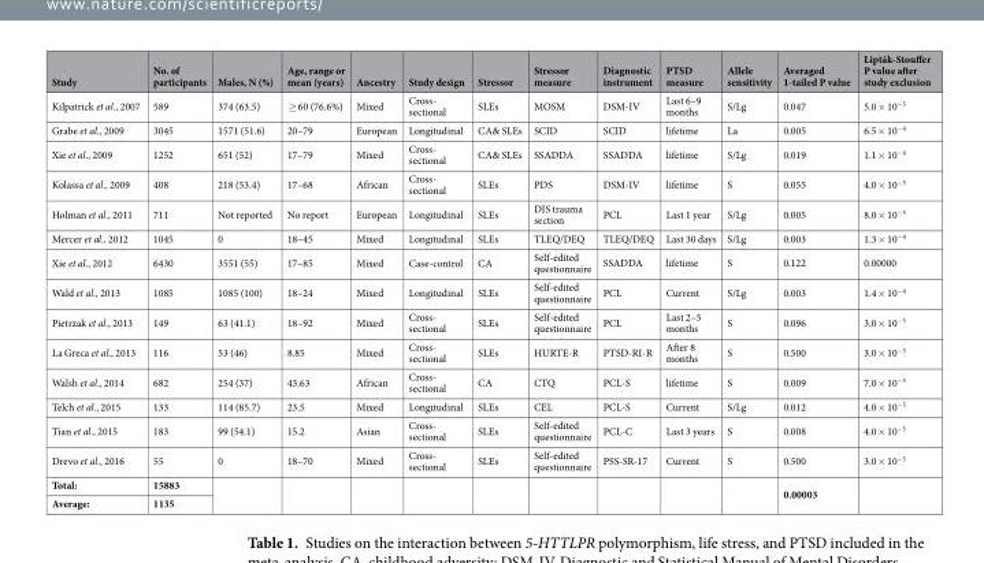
<table><thead><tr><td>Study</td><td>No. of participants</td><td>Males, N (%)</td><td>Age, range or mean (years)</td><td>Ancestry</td><td>Study design</td><td>Stressor</td><td>Stressor measure</td><td>Diagnostic instrument</td><td>PTSD measure</td><td>Allele sensitivity</td><td>Averaged 1-tailed P value</td><td>Lipták-Stouffer P value after study exclusion</td></tr></thead><tbody><tr><td>Kilpatrick et al., 2007</td><td>589</td><td>374 (63.5)</td><td>≥ 60 (76.6%)</td><td>Mixed</td><td>Cross- sectional</td><td>SLEs</td><td>MOSM</td><td>DSM-IV</td><td>Last 6–9 months</td><td>S/Lg</td><td>0.047</td><td>5.0 × 10<sup>−5</sup></td></tr><tr><td>Grabe et al., 2009</td><td>3045</td><td>1571 (51.6)</td><td>20–79</td><td>European</td><td>Longitudinal</td><td>CA&amp; SLEs</td><td>SCID</td><td>SCID</td><td>lifetime</td><td>La</td><td>0.005</td><td>6.5 × 10<sup>−4</sup></td></tr><tr><td>Xie et al., 2009</td><td>1252</td><td>651 (52)</td><td>17–79</td><td>Mixed</td><td>Cross- sectional</td><td>CA&amp; SLEs</td><td>SSADDA</td><td>SSADDA</td><td>lifetime</td><td>S/Lg</td><td>0.019</td><td>1.1 × 10<sup>−4</sup></td></tr><tr><td>Kolassa et al., 2009</td><td>408</td><td>218 (53.4)</td><td>17–68</td><td>African</td><td>Cross- sectional</td><td>SLEs</td><td>PDS</td><td>DSM-IV</td><td>lifetime</td><td>S</td><td>0.055</td><td>4.0 × 10<sup>−5</sup></td></tr><tr><td>Holman et al., 2011</td><td>711</td><td>Not reported</td><td>No report</td><td>European</td><td>Longitudinal</td><td>SLEs</td><td>DIS trauma section</td><td>PCL</td><td>Last 1 year</td><td>S/Lg</td><td>0.005</td><td>8.0 × 10<sup>−5</sup></td></tr><tr><td>Mercer et al., 2012</td><td>1045</td><td>0</td><td>18–45</td><td>Mixed</td><td>Longitudinal</td><td>SLEs</td><td>TLEQ/DEQ</td><td>TLEQ/DEQ</td><td>Last 30 days</td><td>S/Lg</td><td>0.003</td><td>1.3 × 10<sup>−4</sup></td></tr><tr><td>Xie et al., 2012</td><td>6430</td><td>3551 (55)</td><td>17–85</td><td>Mixed</td><td>Case-control</td><td>CA</td><td>Self-edited questionnaire</td><td>SSADDA</td><td>lifetime</td><td>S</td><td>0.122</td><td>0.00000</td></tr><tr><td>Wald et al., 2013</td><td>1085</td><td>1085 (100)</td><td>18–24</td><td>Mixed</td><td>Longitudinal</td><td>SLEs</td><td>Self-edited questionnaire</td><td>PCL</td><td>Current</td><td>S/Lg</td><td>0.003</td><td>1.4 × 10<sup>−4</sup></td></tr><tr><td>Pietrzak et al., 2013</td><td>149</td><td>63 (41.1)</td><td>18–92</td><td>Mixed</td><td>Cross- sectional</td><td>SLEs</td><td>Self-edited questionnaire</td><td>PCL</td><td>Last 2–5 months</td><td>S</td><td>0.096</td><td>3.0 × 10<sup>−5</sup></td></tr><tr><td>La Greca et al., 2013</td><td>116</td><td>53 (46)</td><td>8.85</td><td>Mixed</td><td>Cross- sectional</td><td>SLEs</td><td>HURTE-R</td><td>PTSD-RI-R</td><td>After 8 months</td><td>S</td><td>0.500</td><td>3.0 × 10<sup>−5</sup></td></tr><tr><td>Walsh et al., 2014</td><td>682</td><td>254 (37)</td><td>43.63</td><td>African</td><td>Cross- sectional</td><td>CA</td><td>CTQ</td><td>PCL-S</td><td>lifetime</td><td>S</td><td>0.009</td><td>7.0 × 10<sup>−5</sup></td></tr><tr><td>Telch et al., 2015</td><td>133</td><td>114 (85.7)</td><td>23.5</td><td>Mixed</td><td>Longitudinal</td><td>SLEs</td><td>CEL</td><td>PCL-S</td><td>Current</td><td>S/Lg</td><td>0.012</td><td>4.0 × 10<sup>−5</sup></td></tr><tr><td>Tian et al., 2015</td><td>183</td><td>99 (54.1)</td><td>15.2</td><td>Asian</td><td>Cross- sectional</td><td>SLEs</td><td>Self-edited questionnaire</td><td>PCL-C</td><td>Last 3 years</td><td>S</td><td>0.008</td><td>4.0 × 10<sup>−5</sup></td></tr><tr><td>Drevo et al., 2016</td><td>55</td><td>0</td><td>18–70</td><td>Mixed</td><td>Cross- sectional</td><td>SLEs</td><td>Self-edited questionnaire</td><td>PSS-SR-17</td><td>Current</td><td>S</td><td>0.500</td><td>3.0 × 10<sup>−5</sup></td></tr><tr><td>Total:</td><td>15883</td><td rowspan="2"></td><td rowspan="2"></td><td rowspan="2"></td><td rowspan="2"></td><td rowspan="2"></td><td rowspan="2"></td><td rowspan="2"></td><td rowspan="2"></td><td rowspan="2"></td><td rowspan="2">0.00003</td><td rowspan="2"></td></tr><tr><td>Average:</td><td>1135</td></tr></tbody></table>